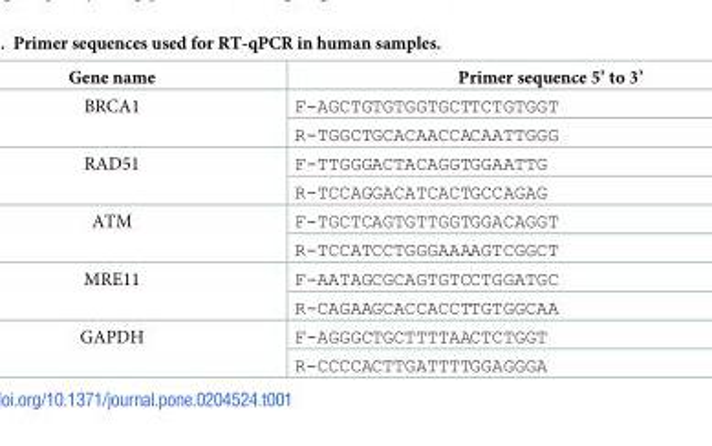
<table><thead><tr><td>Gene name</td><td>Primer sequence 5’ to 3’</td></tr></thead><tbody><tr><td rowspan="2">BRCA1</td><td>F-AGCTGTGTGGTGCTTCTGTGGT</td></tr><tr><td>R-TGGCTGCACAACCACAATTGGG</td></tr><tr><td rowspan="2">RAD51</td><td>F-TTGGGACTACAGGTGGAATTG</td></tr><tr><td>R-TCCAGGACATCACTGCCAGAG</td></tr><tr><td rowspan="2">ATM</td><td>F-TGCTCAGTGTTGGTGGACAGGT</td></tr><tr><td>R-TCCATCCTGGGAAAAGTCGGCT</td></tr><tr><td rowspan="2">MRE11</td><td>F-AATAGCGCAGTGTCCTGGATGC</td></tr><tr><td>R-CAGAAGCACCACCTTGTGGCAA</td></tr><tr><td rowspan="2">GAPDH</td><td>F-AGGGCTGCTTTTAACTCTGGT</td></tr><tr><td>R-CCCCACTTGATTTTGGAGGGA</td></tr></tbody></table>